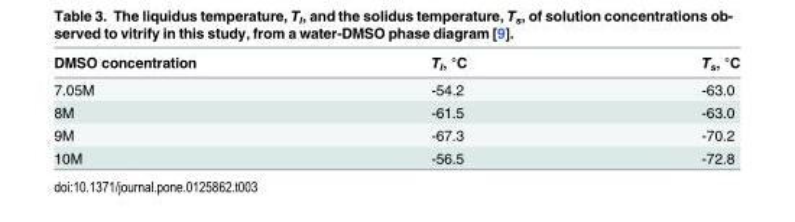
<table><thead><tr><td>DMSO concentration</td><td>T<sub>l</sub>, °C</td><td>T<sub>s</sub>, °C</td></tr></thead><tbody><tr><td>7.05M</td><td>-54.2</td><td>-63.0</td></tr><tr><td>8M</td><td>-61.5</td><td>-63.0</td></tr><tr><td>9M</td><td>-67.3</td><td>-70.2</td></tr><tr><td>10M</td><td>-56.5</td><td>-72.8</td></tr></tbody></table>